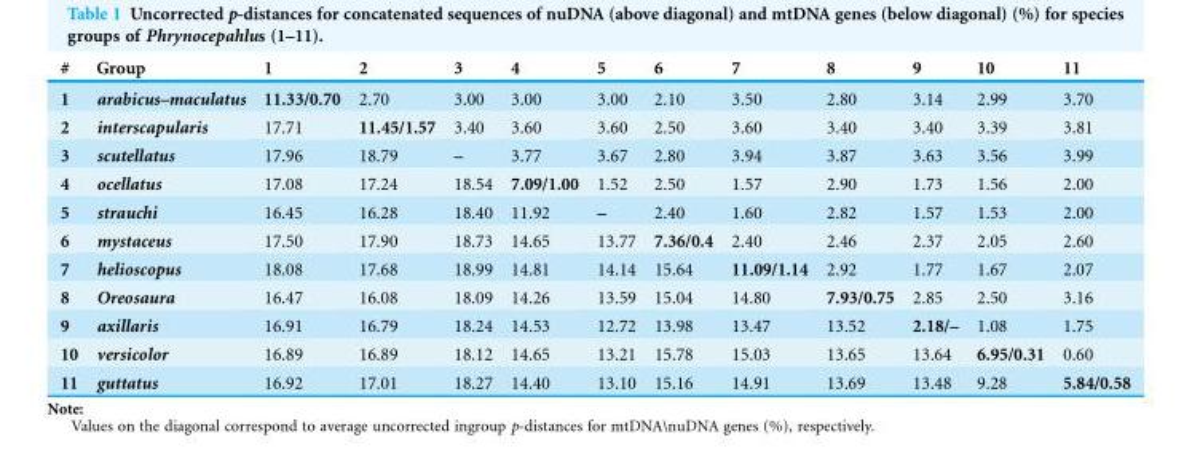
<table><thead><tr><td>#</td><td>Group</td><td>1</td><td>2</td><td>3</td><td>4</td><td>5</td><td>6</td><td>7</td><td>8</td><td>9</td><td>10</td><td>11</td></tr></thead><tbody><tr><td>1</td><td>arabicus–maculatus</td><td>11.33/0.70</td><td>2.70</td><td>3.00</td><td>3.00</td><td>3.00</td><td>2.10</td><td>3.50</td><td>2.80</td><td>3.14</td><td>2.99</td><td>3.70</td></tr><tr><td>2</td><td>interscapularis</td><td>17.71</td><td>11.45/1.57</td><td>3.40</td><td>3.60</td><td>3.60</td><td>2.50</td><td>3.60</td><td>3.40</td><td>3.40</td><td>3.39</td><td>3.81</td></tr><tr><td>3</td><td>scutellatus</td><td>17.96</td><td>18.79</td><td>–</td><td>3.77</td><td>3.67</td><td>2.80</td><td>3.94</td><td>3.87</td><td>3.63</td><td>3.56</td><td>3.99</td></tr><tr><td>4</td><td>ocellatus</td><td>17.08</td><td>17.24</td><td>18.54</td><td>7.09/1.00</td><td>1.52</td><td>2.50</td><td>1.57</td><td>2.90</td><td>1.73</td><td>1.56</td><td>2.00</td></tr><tr><td>5</td><td>strauchi</td><td>16.45</td><td>16.28</td><td>18.40</td><td>11.92</td><td>–</td><td>2.40</td><td>1.60</td><td>2.82</td><td>1.57</td><td>1.53</td><td>2.00</td></tr><tr><td>6</td><td>mystaceus</td><td>17.50</td><td>17.90</td><td>18.73</td><td>14.65</td><td>13.77</td><td>7.36/0.4</td><td>2.40</td><td>2.46</td><td>2.37</td><td>2.05</td><td>2.60</td></tr><tr><td>7</td><td>helioscopus</td><td>18.08</td><td>17.68</td><td>18.99</td><td>14.81</td><td>14.14</td><td>15.64</td><td>11.09/1.14</td><td>2.92</td><td>1.77</td><td>1.67</td><td>2.07</td></tr><tr><td>8</td><td>Oreosaura</td><td>16.47</td><td>16.08</td><td>18.09</td><td>14.26</td><td>13.59</td><td>15.04</td><td>14.80</td><td>7.93/0.75</td><td>2.85</td><td>2.50</td><td>3.16</td></tr><tr><td>9</td><td>axillaris</td><td>16.91</td><td>16.79</td><td>18.24</td><td>14.53</td><td>12.72</td><td>13.98</td><td>13.47</td><td>13.52</td><td>2.18/–</td><td>1.08</td><td>1.75</td></tr><tr><td>10</td><td>versicolor</td><td>16.89</td><td>16.89</td><td>18.12</td><td>14.65</td><td>13.21</td><td>15.78</td><td>15.03</td><td>13.65</td><td>13.64</td><td>6.95/0.31</td><td>0.60</td></tr><tr><td>11</td><td>guttatus</td><td>16.92</td><td>17.01</td><td>18.27</td><td>14.40</td><td>13.10</td><td>15.16</td><td>14.91</td><td>13.69</td><td>13.48</td><td>9.28</td><td>5.84/0.58</td></tr></tbody></table>